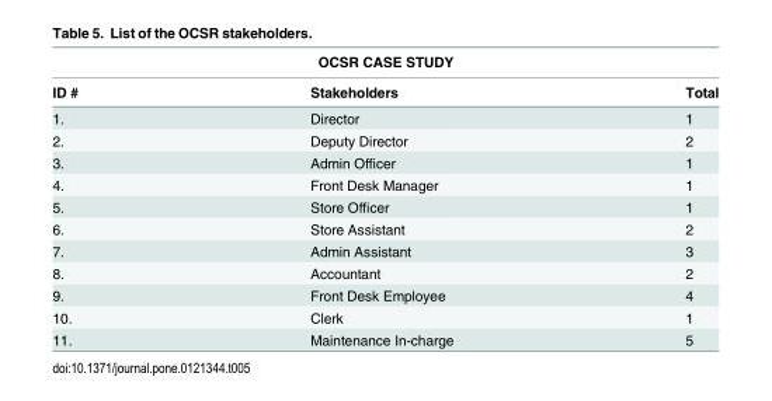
<table><thead><tr><td colspan="3">OCSR CASE STUDY</td></tr><tr><td>ID #</td><td>Stakeholders</td><td>Total</td></tr></thead><tbody><tr><td>1.</td><td>Director</td><td>1</td></tr><tr><td>2.</td><td>Deputy Director</td><td>2</td></tr><tr><td>3.</td><td>Admin Officer</td><td>1</td></tr><tr><td>4.</td><td>Front Desk Manager</td><td>1</td></tr><tr><td>5.</td><td>Store Officer</td><td>1</td></tr><tr><td>6.</td><td>Store Assistant</td><td>2</td></tr><tr><td>7.</td><td>Admin Assistant</td><td>3</td></tr><tr><td>8.</td><td>Accountant</td><td>2</td></tr><tr><td>9.</td><td>Front Desk Employee</td><td>4</td></tr><tr><td>10.</td><td>Clerk</td><td>1</td></tr><tr><td>11.</td><td>Maintenance In-charge</td><td>5</td></tr></tbody></table>